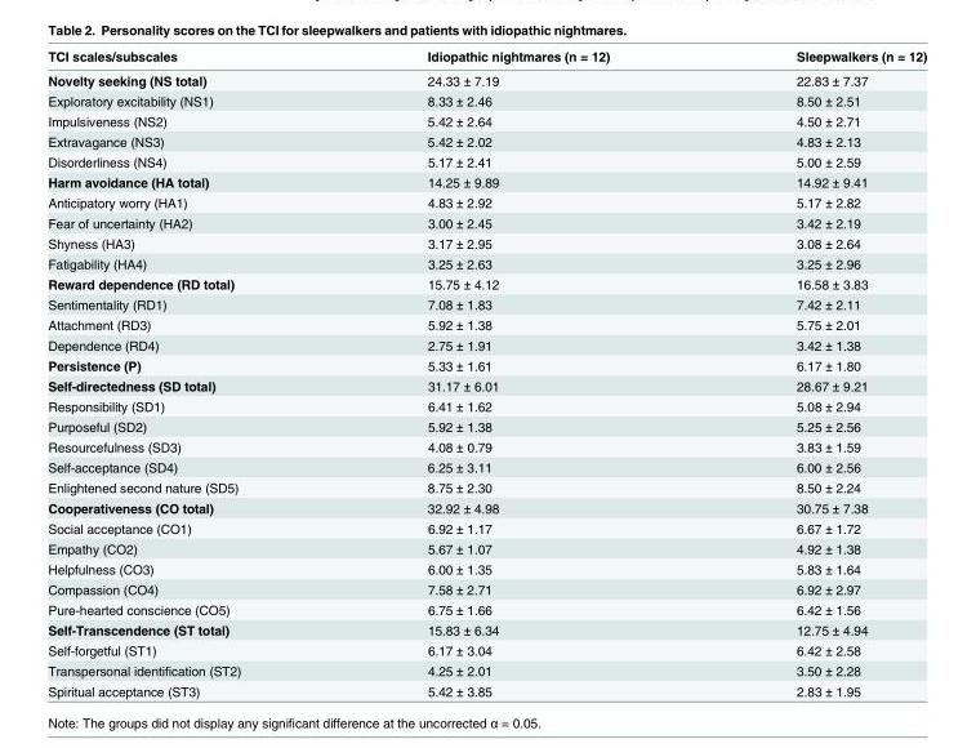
<table><thead><tr><td>TCI scales/subscales</td><td>Idiopathic nightmares (n = 12)</td><td>Sleepwalkers (n = 12)</td></tr></thead><tbody><tr><td>Novelty seeking (NS total)</td><td>24.33 ± 7.19</td><td>22.83 ± 7.37</td></tr><tr><td>Exploratory excitability (NS1)</td><td>8.33 ± 2.46</td><td>8.50 ± 2.51</td></tr><tr><td>Impulsiveness (NS2)</td><td>5.42 ± 2.64</td><td>4.50 ± 2.71</td></tr><tr><td>Extravagance (NS3)</td><td>5.42 ± 2.02</td><td>4.83 ± 2.13</td></tr><tr><td>Disorderliness (NS4)</td><td>5.17 ± 2.41</td><td>5.00 ± 2.59</td></tr><tr><td>Harm avoidance (HA total)</td><td>14.25 ± 9.89</td><td>14.92 ± 9.41</td></tr><tr><td>Anticipatory worry (HA1)</td><td>4.83 ± 2.92</td><td>5.17 ± 2.82</td></tr><tr><td>Fear of uncertainty (HA2)</td><td>3.00 ± 2.45</td><td>3.42 ± 2.19</td></tr><tr><td>Shyness (HA3)</td><td>3.17 ± 2.95</td><td>3.08 ± 2.64</td></tr><tr><td>Fatigability (HA4)</td><td>3.25 ± 2.63</td><td>3.25 ± 2.96</td></tr><tr><td>Reward dependence (RD total)</td><td>15.75 ± 4.12</td><td>16.58 ± 3.83</td></tr><tr><td>Sentimentality (RD1)</td><td>7.08 ± 1.83</td><td>7.42 ± 2.11</td></tr><tr><td>Attachment (RD3)</td><td>5.92 ± 1.38</td><td>5.75 ± 2.01</td></tr><tr><td>Dependence (RD4)</td><td>2.75 ± 1.91</td><td>3.42 ± 1.38</td></tr><tr><td>Persistence (P)</td><td>5.33 ± 1.61</td><td>6.17 ± 1.80</td></tr><tr><td>Self-directedness (SD total)</td><td>31.17 ± 6.01</td><td>28.67 ± 9.21</td></tr><tr><td>Responsibility (SD1)</td><td>6.41 ± 1.62</td><td>5.08 ± 2.94</td></tr><tr><td>Purposeful (SD2)</td><td>5.92 ± 1.38</td><td>5.25 ± 2.56</td></tr><tr><td>Resourcefulness (SD3)</td><td>4.08 ± 0.79</td><td>3.83 ± 1.59</td></tr><tr><td>Self-acceptance (SD4)</td><td>6.25 ± 3.11</td><td>6.00 ± 2.56</td></tr><tr><td>Enlightened second nature (SD5)</td><td>8.75 ± 2.30</td><td>8.50 ± 2.24</td></tr><tr><td>Cooperativeness (CO total)</td><td>32.92 ± 4.98</td><td>30.75 ± 7.38</td></tr><tr><td>Social acceptance (CO1)</td><td>6.92 ± 1.17</td><td>6.67 ± 1.72</td></tr><tr><td>Empathy (CO2)</td><td>5.67 ± 1.07</td><td>4.92 ± 1.38</td></tr><tr><td>Helpfulness (CO3)</td><td>6.00 ± 1.35</td><td>5.83 ± 1.64</td></tr><tr><td>Compassion (CO4)</td><td>7.58 ± 2.71</td><td>6.92 ± 2.97</td></tr><tr><td>Pure-hearted conscience (CO5)</td><td>6.75 ± 1.66</td><td>6.42 ± 1.56</td></tr><tr><td>Self-Transcendence (ST total)</td><td>15.83 ± 6.34</td><td>12.75 ± 4.94</td></tr><tr><td>Self-forgetful (ST1)</td><td>6.17 ± 3.04</td><td>6.42 ± 2.58</td></tr><tr><td>Transpersonal identification (ST2)</td><td>4.25 ± 2.01</td><td>3.50 ± 2.28</td></tr><tr><td>Spiritual acceptance (ST3)</td><td>5.42 ± 3.85</td><td>2.83 ± 1.95</td></tr></tbody></table>